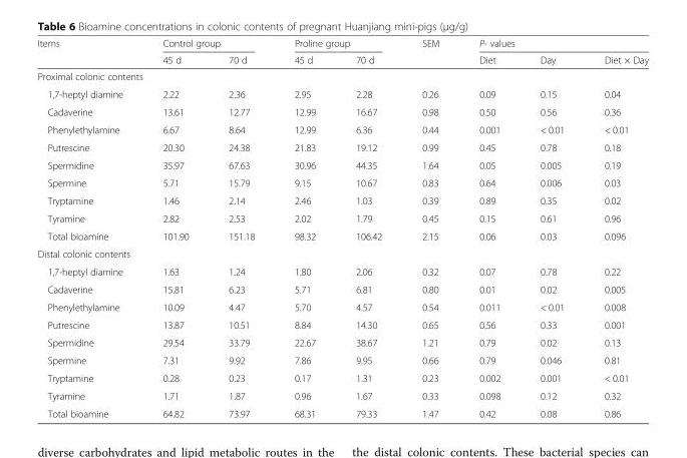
<table><thead><tr><td rowspan="2">Items</td><td colspan="2">Control group</td><td colspan="2">Proline group</td><td rowspan="2">SEM</td><td colspan="3">P- values</td></tr><tr><td>45 d</td><td>70 d</td><td>45 d</td><td>70 d</td><td>Diet</td><td>Day</td><td>Diet × Day</td></tr></thead><tbody><tr><td colspan="9">Proximal colonic contents</td></tr><tr><td>1,7-heptyl diamine</td><td>2.22</td><td>2.36</td><td>2.95</td><td>2.28</td><td>0.26</td><td>0.09</td><td>0.15</td><td>0.04</td></tr><tr><td>Cadaverine</td><td>13.61</td><td>12.77</td><td>12.99</td><td>16.67</td><td>0.98</td><td>0.50</td><td>0.56</td><td>0.36</td></tr><tr><td>Phenylethylamine</td><td>6.67</td><td>8.64</td><td>12.99</td><td>6.36</td><td>0.44</td><td>0.001</td><td>&lt; 0.01</td><td>&lt; 0.01</td></tr><tr><td>Putrescine</td><td>20.30</td><td>24.38</td><td>21.83</td><td>19.12</td><td>0.99</td><td>0.45</td><td>0.78</td><td>0.18</td></tr><tr><td>Spermidine</td><td>35.97</td><td>67.63</td><td>30.96</td><td>44.35</td><td>1.64</td><td>0.05</td><td>0.005</td><td>0.19</td></tr><tr><td>Spermine</td><td>5.71</td><td>15.79</td><td>9.15</td><td>10.67</td><td>0.83</td><td>0.64</td><td>0.006</td><td>0.03</td></tr><tr><td>Tryptamine</td><td>1.46</td><td>2.14</td><td>2.46</td><td>1.03</td><td>0.39</td><td>0.89</td><td>0.35</td><td>0.02</td></tr><tr><td>Tyramine</td><td>2.82</td><td>2.53</td><td>2.02</td><td>1.79</td><td>0.45</td><td>0.15</td><td>0.61</td><td>0.96</td></tr><tr><td>Total bioamine</td><td>101.90</td><td>151.18</td><td>98.32</td><td>106.42</td><td>2.15</td><td>0.06</td><td>0.03</td><td>0.096</td></tr><tr><td colspan="9">Distal colonic contents</td></tr><tr><td>1,7-heptyl diamine</td><td>1.63</td><td>1.24</td><td>1.80</td><td>2.06</td><td>0.32</td><td>0.07</td><td>0.78</td><td>0.22</td></tr><tr><td>Cadaverine</td><td>15.81</td><td>6.23</td><td>5.71</td><td>6.81</td><td>0.80</td><td>0.01</td><td>0.02</td><td>0.005</td></tr><tr><td>Phenylethylamine</td><td>10.09</td><td>4.47</td><td>5.70</td><td>4.57</td><td>0.54</td><td>0.011</td><td>&lt; 0.01</td><td>0.008</td></tr><tr><td>Putrescine</td><td>13.87</td><td>10.51</td><td>8.84</td><td>14.30</td><td>0.65</td><td>0.56</td><td>0.33</td><td>0.001</td></tr><tr><td>Spermidine</td><td>29.54</td><td>33.79</td><td>22.67</td><td>38.67</td><td>1.21</td><td>0.79</td><td>0.02</td><td>0.13</td></tr><tr><td>Spermine</td><td>7.31</td><td>9.92</td><td>7.86</td><td>9.95</td><td>0.66</td><td>0.79</td><td>0.046</td><td>0.81</td></tr><tr><td>Tryptamine</td><td>0.28</td><td>0.23</td><td>0.17</td><td>1.31</td><td>0.23</td><td>0.002</td><td>0.001</td><td>&lt; 0.01</td></tr><tr><td>Tyramine</td><td>1.71</td><td>1.87</td><td>0.96</td><td>1.67</td><td>0.33</td><td>0.098</td><td>0.12</td><td>0.32</td></tr><tr><td>Total bioamine</td><td>64.82</td><td>73.97</td><td>68.31</td><td>79.33</td><td>1.47</td><td>0.42</td><td>0.08</td><td>0.86</td></tr></tbody></table>